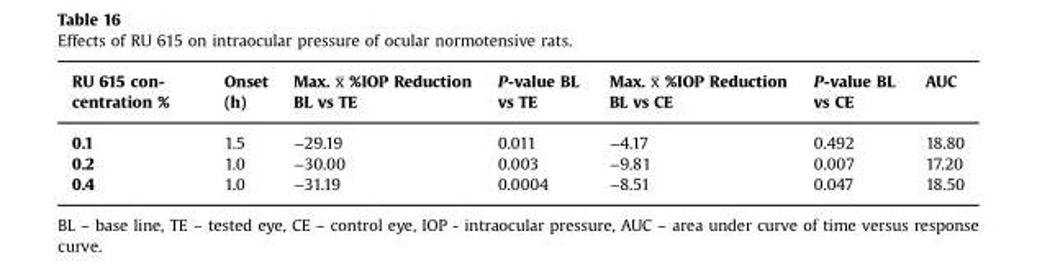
<table><thead><tr><td>RU 615 con- centration %</td><td>Onset (h)</td><td>Max. x̅ %IOP Reduction BL vs TE</td><td>P-value BL vs TE</td><td>Max. x̅ %IOP Reduction BL vs CE</td><td>P-value BL vs CE</td><td>AUC</td></tr></thead><tbody><tr><td>0.1</td><td>1.5</td><td>−29.19</td><td>0.011</td><td>−4.17</td><td>0.492</td><td>18.80</td></tr><tr><td>0.2</td><td>1.0</td><td>−30.00</td><td>0.003</td><td>−9.81</td><td>0.007</td><td>17.20</td></tr><tr><td>0.4</td><td>1.0</td><td>−31.19</td><td>0.0004</td><td>−8.51</td><td>0.047</td><td>18.50</td></tr></tbody></table>